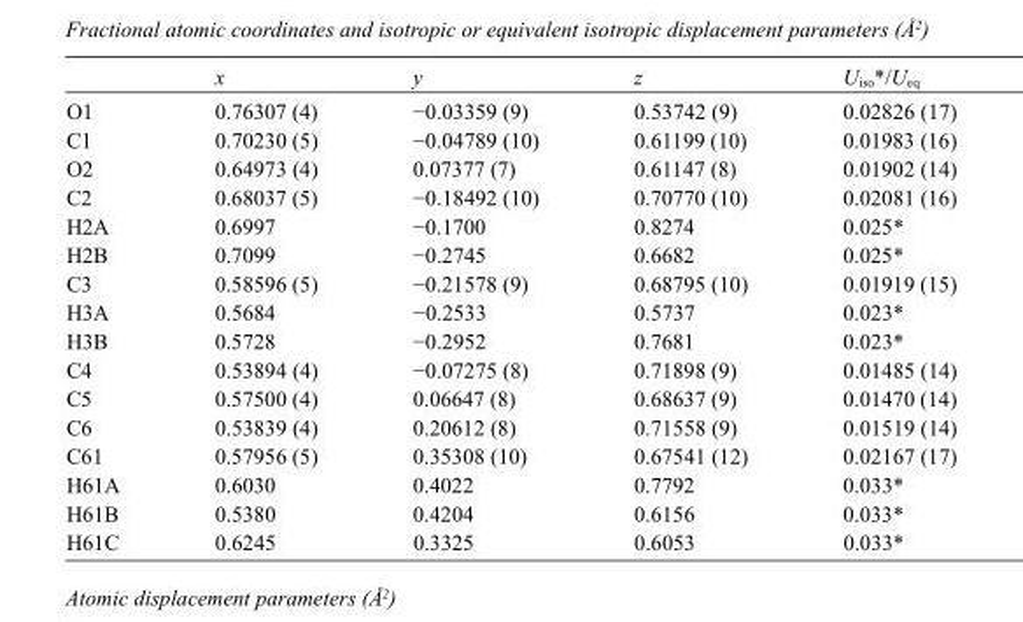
<table><thead><tr><td></td><td>x</td><td>y</td><td>z</td><td>U<sub>iso</sub>*/U<sub>eq</sub></td></tr></thead><tbody><tr><td>O1</td><td>0.76307 (4)</td><td>−0.03359 (9)</td><td>0.53742 (9)</td><td>0.02826 (17)</td></tr><tr><td>C1</td><td>0.70230 (5)</td><td>−0.04789 (10)</td><td>0.61199 (10)</td><td>0.01983 (16)</td></tr><tr><td>O2</td><td>0.64973 (4)</td><td>0.07377 (7)</td><td>0.61147 (8)</td><td>0.01902 (14)</td></tr><tr><td>C2</td><td>0.68037 (5)</td><td>−0.18492 (10)</td><td>0.70770 (10)</td><td>0.02081 (16)</td></tr><tr><td>H2A</td><td>0.6997</td><td>−0.1700</td><td>0.8274</td><td>0.025*</td></tr><tr><td>H2B</td><td>0.7099</td><td>−0.2745</td><td>0.6682</td><td>0.025*</td></tr><tr><td>C3</td><td>0.58596 (5)</td><td>−0.21578 (9)</td><td>0.68795 (10)</td><td>0.01919 (15)</td></tr><tr><td>H3A</td><td>0.5684</td><td>−0.2533</td><td>0.5737</td><td>0.023*</td></tr><tr><td>H3B</td><td>0.5728</td><td>−0.2952</td><td>0.7681</td><td>0.023*</td></tr><tr><td>C4</td><td>0.53894 (4)</td><td>−0.07275 (8)</td><td>0.71898 (9)</td><td>0.01485 (14)</td></tr><tr><td>C5</td><td>0.57500 (4)</td><td>0.06647 (8)</td><td>0.68637 (9)</td><td>0.01470 (14)</td></tr><tr><td>C6</td><td>0.53839 (4)</td><td>0.20612 (8)</td><td>0.71558 (9)</td><td>0.01519 (14)</td></tr><tr><td>C61</td><td>0.57956 (5)</td><td>0.35308 (10)</td><td>0.67541 (12)</td><td>0.02167 (17)</td></tr><tr><td>H61A</td><td>0.6030</td><td>0.4022</td><td>0.7792</td><td>0.033*</td></tr><tr><td>H61B</td><td>0.5380</td><td>0.4204</td><td>0.6156</td><td>0.033*</td></tr><tr><td>H61C</td><td>0.6245</td><td>0.3325</td><td>0.6053</td><td>0.033*</td></tr></tbody></table>